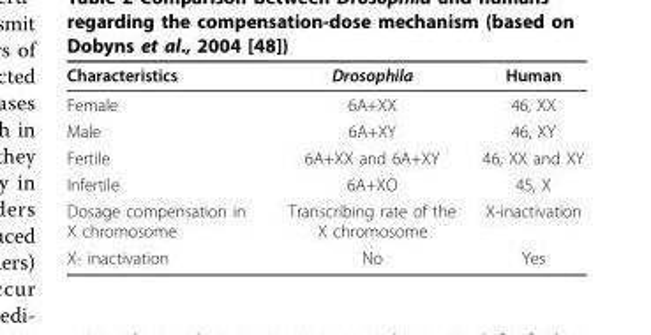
<table><thead><tr><td>Characteristics</td><td>Drosophila</td><td>Human</td></tr></thead><tbody><tr><td>Female</td><td>6A+XX</td><td>46, XX</td></tr><tr><td>Male</td><td>6A+XY</td><td>46, XY</td></tr><tr><td>Fertile</td><td>6A+XX and 6A+XY</td><td>46, XX and XY</td></tr><tr><td>Infertile</td><td>6A+XO</td><td>45, X</td></tr><tr><td>Dosage compensation in X chromosome</td><td>Transcribing rate of the X chromosome</td><td>X-inactivation</td></tr><tr><td>X- inactivation</td><td>No</td><td>Yes</td></tr></tbody></table>